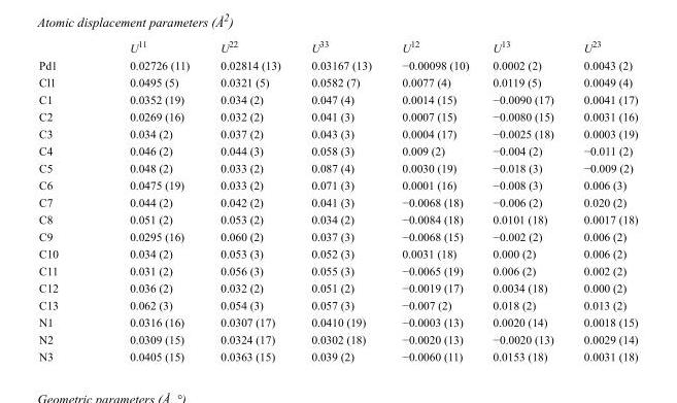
<table><thead><tr><td></td><td>U<sup>11</sup></td><td>U<sup>22</sup></td><td>U<sup>33</sup></td><td>U<sup>12</sup></td><td>U<sup>13</sup></td><td>U<sup>23</sup></td></tr></thead><tbody><tr><td>Pd1</td><td>0.02726 (11)</td><td>0.02814 (13)</td><td>0.03167 (13)</td><td>−0.00098 (10)</td><td>0.0002 (2)</td><td>0.0043 (2)</td></tr><tr><td>Cl1</td><td>0.0495 (5)</td><td>0.0321 (5)</td><td>0.0582 (7)</td><td>0.0077 (4)</td><td>0.0119 (5)</td><td>0.0049 (4)</td></tr><tr><td>C1</td><td>0.0352 (19)</td><td>0.034 (2)</td><td>0.047 (4)</td><td>0.0014 (15)</td><td>−0.0090 (17)</td><td>0.0041 (17)</td></tr><tr><td>C2</td><td>0.0269 (16)</td><td>0.032 (2)</td><td>0.041 (3)</td><td>0.0007 (15)</td><td>−0.0080 (15)</td><td>0.0031 (16)</td></tr><tr><td>C3</td><td>0.034 (2)</td><td>0.037 (2)</td><td>0.043 (3)</td><td>0.0004 (17)</td><td>−0.0025 (18)</td><td>0.0003 (19)</td></tr><tr><td>C4</td><td>0.046 (2)</td><td>0.044 (3)</td><td>0.058 (3)</td><td>0.009 (2)</td><td>−0.004 (2)</td><td>−0.011 (2)</td></tr><tr><td>C5</td><td>0.048 (2)</td><td>0.033 (2)</td><td>0.087 (4)</td><td>0.0030 (19)</td><td>−0.018 (3)</td><td>−0.009 (2)</td></tr><tr><td>C6</td><td>0.0475 (19)</td><td>0.033 (2)</td><td>0.071 (3)</td><td>0.0001 (16)</td><td>−0.008 (3)</td><td>0.006 (3)</td></tr><tr><td>C7</td><td>0.044 (2)</td><td>0.042 (2)</td><td>0.041 (3)</td><td>−0.0068 (18)</td><td>−0.006 (2)</td><td>0.020 (2)</td></tr><tr><td>C8</td><td>0.051 (2)</td><td>0.053 (2)</td><td>0.034 (2)</td><td>−0.0084 (18)</td><td>0.0101 (18)</td><td>0.0017 (18)</td></tr><tr><td>C9</td><td>0.0295 (16)</td><td>0.060 (2)</td><td>0.037 (3)</td><td>−0.0068 (15)</td><td>−0.002 (2)</td><td>0.006 (2)</td></tr><tr><td>C10</td><td>0.034 (2)</td><td>0.053 (3)</td><td>0.052 (3)</td><td>0.0031 (18)</td><td>0.000 (2)</td><td>0.006 (2)</td></tr><tr><td>C11</td><td>0.031 (2)</td><td>0.056 (3)</td><td>0.055 (3)</td><td>−0.0065 (19)</td><td>0.006 (2)</td><td>0.002 (2)</td></tr><tr><td>C12</td><td>0.036 (2)</td><td>0.032 (2)</td><td>0.051 (2)</td><td>−0.0019 (17)</td><td>0.0034 (18)</td><td>0.000 (2)</td></tr><tr><td>C13</td><td>0.062 (3)</td><td>0.054 (3)</td><td>0.057 (3)</td><td>−0.007 (2)</td><td>0.018 (2)</td><td>0.013 (2)</td></tr><tr><td>N1</td><td>0.0316 (16)</td><td>0.0307 (17)</td><td>0.0410 (19)</td><td>−0.0003 (13)</td><td>0.0020 (14)</td><td>0.0018 (15)</td></tr><tr><td>N2</td><td>0.0309 (15)</td><td>0.0324 (17)</td><td>0.0302 (18)</td><td>−0.0020 (13)</td><td>−0.0020 (13)</td><td>0.0029 (14)</td></tr><tr><td>N3</td><td>0.0405 (15)</td><td>0.0363 (15)</td><td>0.039 (2)</td><td>−0.0060 (11)</td><td>0.0153 (18)</td><td>0.0031 (18)</td></tr></tbody></table>